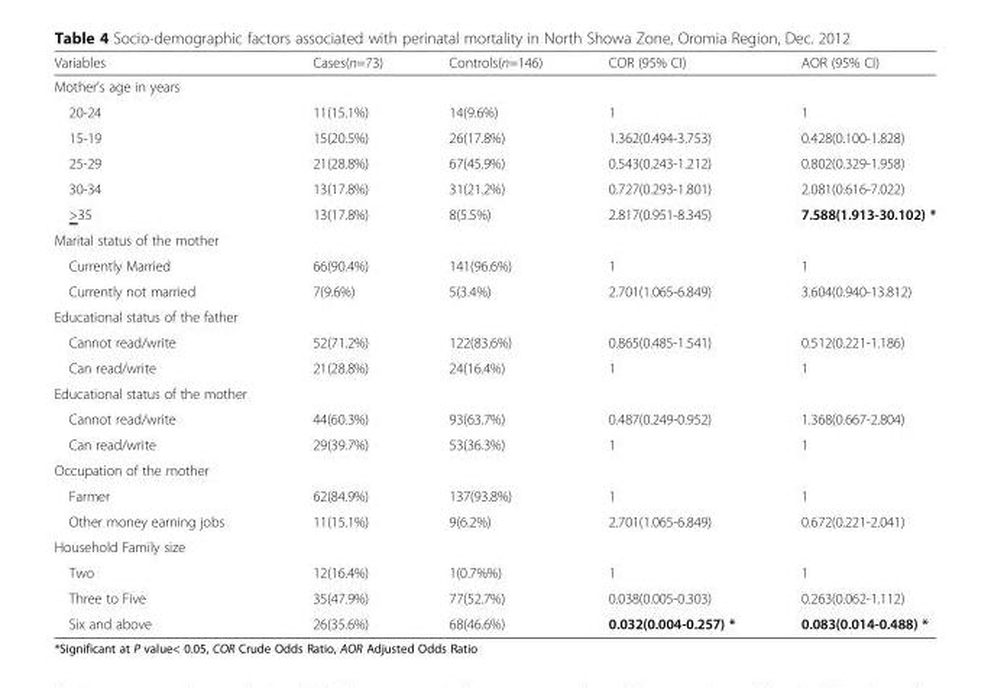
<table><thead><tr><td>Variables</td><td>Cases(n=73)</td><td>Controls(n=146)</td><td>COR (95% CI)</td><td>AOR (95% CI)</td></tr></thead><tbody><tr><td colspan="5">Mother&#x27;s age in years</td></tr><tr><td>20-24</td><td>11(15.1%)</td><td>14(9.6%)</td><td>1</td><td>1</td></tr><tr><td>15-19</td><td>15(20.5%)</td><td>26(17.8%)</td><td>1.362(0.494-3.753)</td><td>0.428(0.100-1.828)</td></tr><tr><td>25-29</td><td>21(28.8%)</td><td>67(45.9%)</td><td>0.543(0.243-1.212)</td><td>0.802(0.329-1.958)</td></tr><tr><td>30-34</td><td>13(17.8%)</td><td>31(21.2%)</td><td>0.727(0.293-1.801)</td><td>2.081(0.616-7.022)</td></tr><tr><td>&gt;35</td><td>13(17.8%)</td><td>8(5.5%)</td><td>2.817(0.951-8.345)</td><td>7.588(1.913-30.102) *</td></tr><tr><td colspan="5">Marital status of the mother</td></tr><tr><td>Currently Married</td><td>66(90.4%)</td><td>141(96.6%)</td><td>1</td><td>1</td></tr><tr><td>Currently not married</td><td>7(9.6%)</td><td>5(3.4%)</td><td>2.701(1.065-6.849)</td><td>3.604(0.940-13.812)</td></tr><tr><td colspan="5">Educational status of the father</td></tr><tr><td>Cannot read/write</td><td>52(71.2%)</td><td>122(83.6%)</td><td>0.865(0.485-1.541)</td><td>0.512(0.221-1.186)</td></tr><tr><td>Can read/write</td><td>21(28.8%)</td><td>24(16.4%)</td><td>1</td><td>1</td></tr><tr><td colspan="5">Educational status of the mother</td></tr><tr><td>Cannot read/write</td><td>44(60.3%)</td><td>93(63.7%)</td><td>0.487(0.249-0.952)</td><td>1.368(0.667-2.804)</td></tr><tr><td>Can read/write</td><td>29(39.7%)</td><td>53(36.3%)</td><td>1</td><td>1</td></tr><tr><td colspan="5">Occupation of the mother</td></tr><tr><td>Farmer</td><td>62(84.9%)</td><td>137(93.8%)</td><td>1</td><td>1</td></tr><tr><td>Other money earning jobs</td><td>11(15.1%)</td><td>9(6.2%)</td><td>2.701(1.065-6.849)</td><td>0.672(0.221-2.041)</td></tr><tr><td colspan="5">Household Family size</td></tr><tr><td>Two</td><td>12(16.4%)</td><td>1(0.7%%)</td><td>1</td><td>1</td></tr><tr><td>Three to Five</td><td>35(47.9%)</td><td>77(52.7%)</td><td>0.038(0.005-0.303)</td><td>0.263(0.062-1.112)</td></tr><tr><td>Six and above</td><td>26(35.6%)</td><td>68(46.6%)</td><td>0.032(0.004-0.257) *</td><td>0.083(0.014-0.488) *</td></tr></tbody></table>